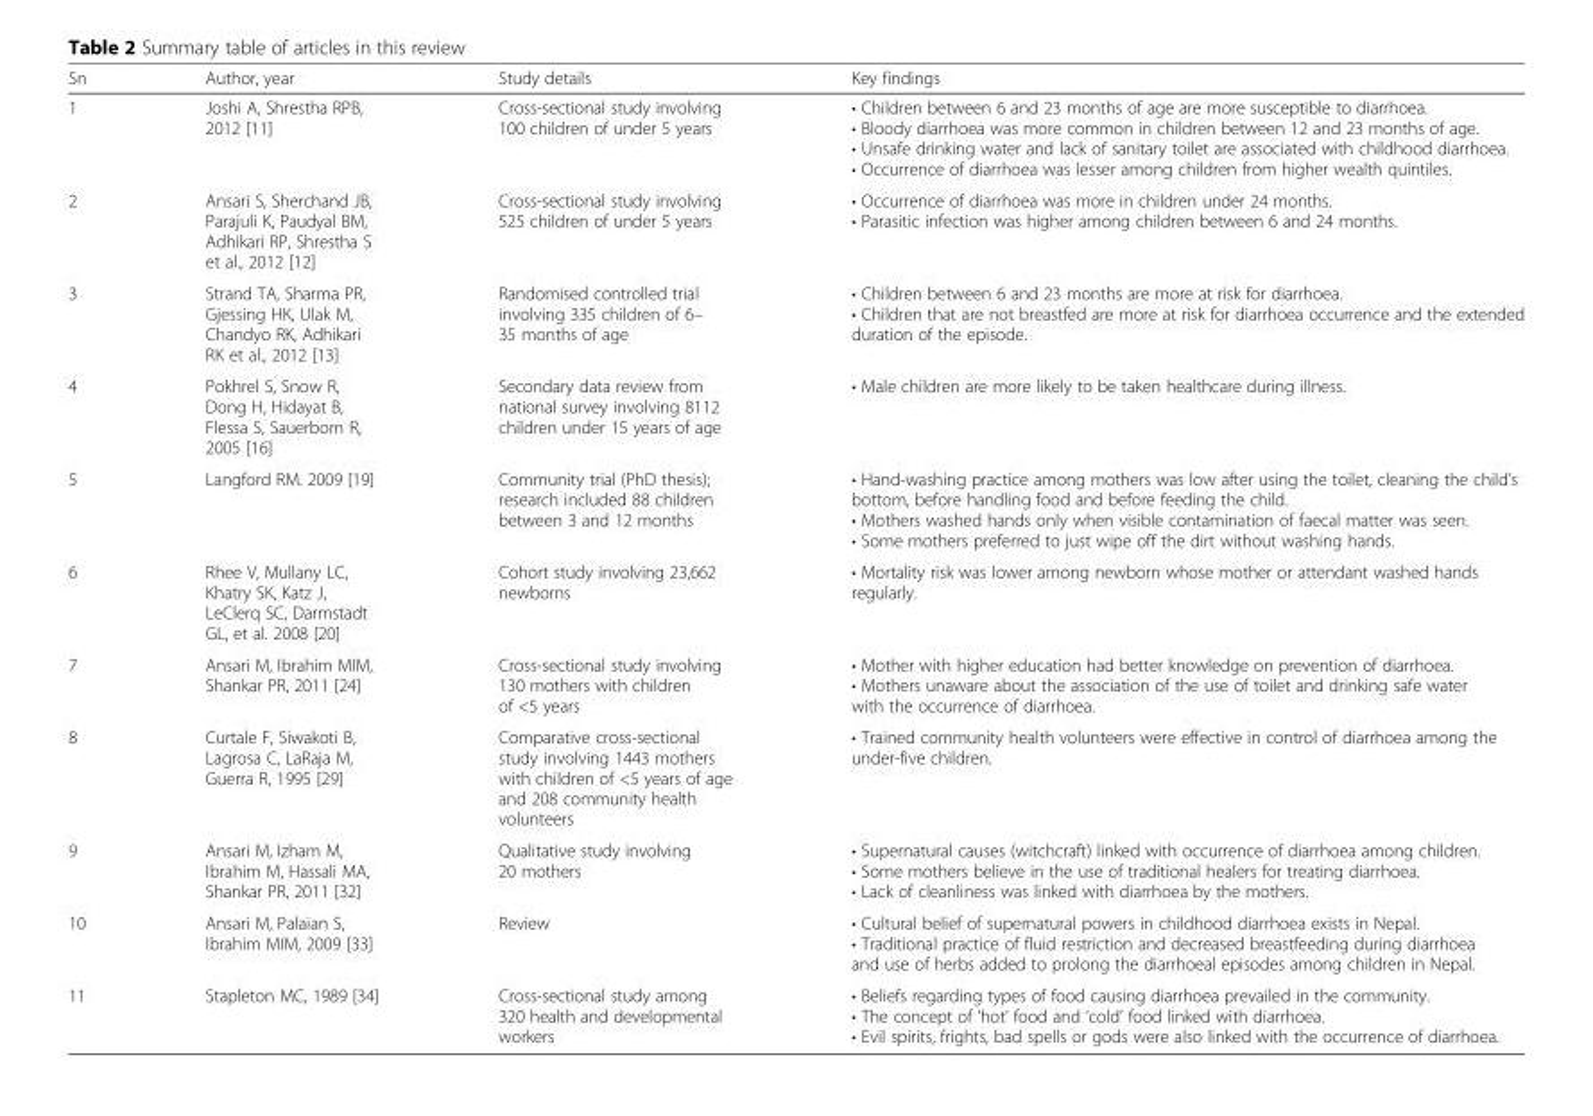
<table><thead><tr><td>Sn</td><td>Author, year</td><td>Study details</td><td>Key findings</td></tr></thead><tbody><tr><td>1</td><td>Joshi A, Shrestha RPB, 2012 [11]</td><td>Cross-sectional study involving 100 children of under 5 years</td><td>• Children between 6 and 23 months of age are more susceptible to diarrhoea. • Bloody diarrhoea was more common in children between 12 and 23 months of age. • Unsafe drinking water and lack of sanitary toilet are associated with childhood diarrhoea. • Occurrence of diarrhoea was lesser among children from higher wealth quintiles.</td></tr><tr><td>2</td><td>Ansari S, Sherchand JB, Parajuli K, Paudyal BM, Adhikari RP, Shrestha S et al., 2012 [12]</td><td>Cross-sectional study involving 525 children of under 5 years</td><td>• Occurrence of diarrhoea was more in children under 24 months. • Parasitic infection was higher among children between 6 and 24 months.</td></tr><tr><td>3</td><td>Strand TA, Sharma PR, Gjessing HK, Ulak M, Chandyo RK, Adhikari RK et al., 2012 [13]</td><td>Randomised controlled trial involving 335 children of 6– 35 months of age</td><td>• Children between 6 and 23 months are more at risk for diarrhoea. • Children that are not breastfed are more at risk for diarrhoea occurrence and the extended duration of the episode.</td></tr><tr><td>4</td><td>Pokhrel S, Snow R, Dong H, Hidayat B, Flessa S, Sauerborn R, 2005 [16]</td><td>Secondary data review from national survey involving 8112 children under 15 years of age</td><td>• Male children are more likely to be taken healthcare during illness.</td></tr><tr><td>5</td><td>Langford RM. 2009 [19]</td><td>Community trial (PhD thesis); research included 88 children between 3 and 12 months</td><td>• Hand-washing practice among mothers was low after using the toilet, cleaning the child’s bottom, before handling food and before feeding the child. • Mothers washed hands only when visible contamination of faecal matter was seen. • Some mothers preferred to just wipe off the dirt without washing hands.</td></tr><tr><td>6</td><td>Rhee V, Mullany LC, Khatry SK, Katz J, LeClerq SC, Darmstadt GL, et al. 2008 [20]</td><td>Cohort study involving 23,662 newborns</td><td>• Mortality risk was lower among newborn whose mother or attendant washed hands regularly.</td></tr><tr><td>7</td><td>Ansari M, Ibrahim MIM, Shankar PR, 2011 [24]</td><td>Cross-sectional study involving 130 mothers with children of &lt;5 years</td><td>• Mother with higher education had better knowledge on prevention of diarrhoea. • Mothers unaware about the association of the use of toilet and drinking safe water with the occurrence of diarrhoea.</td></tr><tr><td>8</td><td>Curtale F, Siwakoti B, Lagrosa C, LaRaja M, Guerra R, 1995 [29]</td><td>Comparative cross-sectional study involving 1443 mothers with children of &lt;5 years of age and 208 community health volunteers</td><td>• Trained community health volunteers were effective in control of diarrhoea among the under-five children.</td></tr><tr><td>9</td><td>Ansari M, Izham M, Ibrahim M, Hassali MA, Shankar PR, 2011 [32]</td><td>Qualitative study involving 20 mothers</td><td>• Supernatural causes (witchcraft) linked with occurrence of diarrhoea among children. • Some mothers believe in the use of traditional healers for treating diarrhoea. • Lack of cleanliness was linked with diarrhoea by the mothers.</td></tr><tr><td>10</td><td>Ansari M, Palaian S, Ibrahim MIM, 2009 [33]</td><td>Review</td><td>• Cultural belief of supernatural powers in childhood diarrhoea exists in Nepal. • Traditional practice of fluid restriction and decreased breastfeeding during diarrhoea and use of herbs added to prolong the diarrhoeal episodes among children in Nepal.</td></tr><tr><td>11</td><td>Stapleton MC, 1989 [34]</td><td>Cross-sectional study among 320 health and developmental workers</td><td>• Beliefs regarding types of food causing diarrhoea prevailed in the community. • The concept of ‘hot’ food and ‘cold’ food linked with diarrhoea. • Evil spirits, frights, bad spells or gods were also linked with the occurrence of diarrhoea.</td></tr></tbody></table>